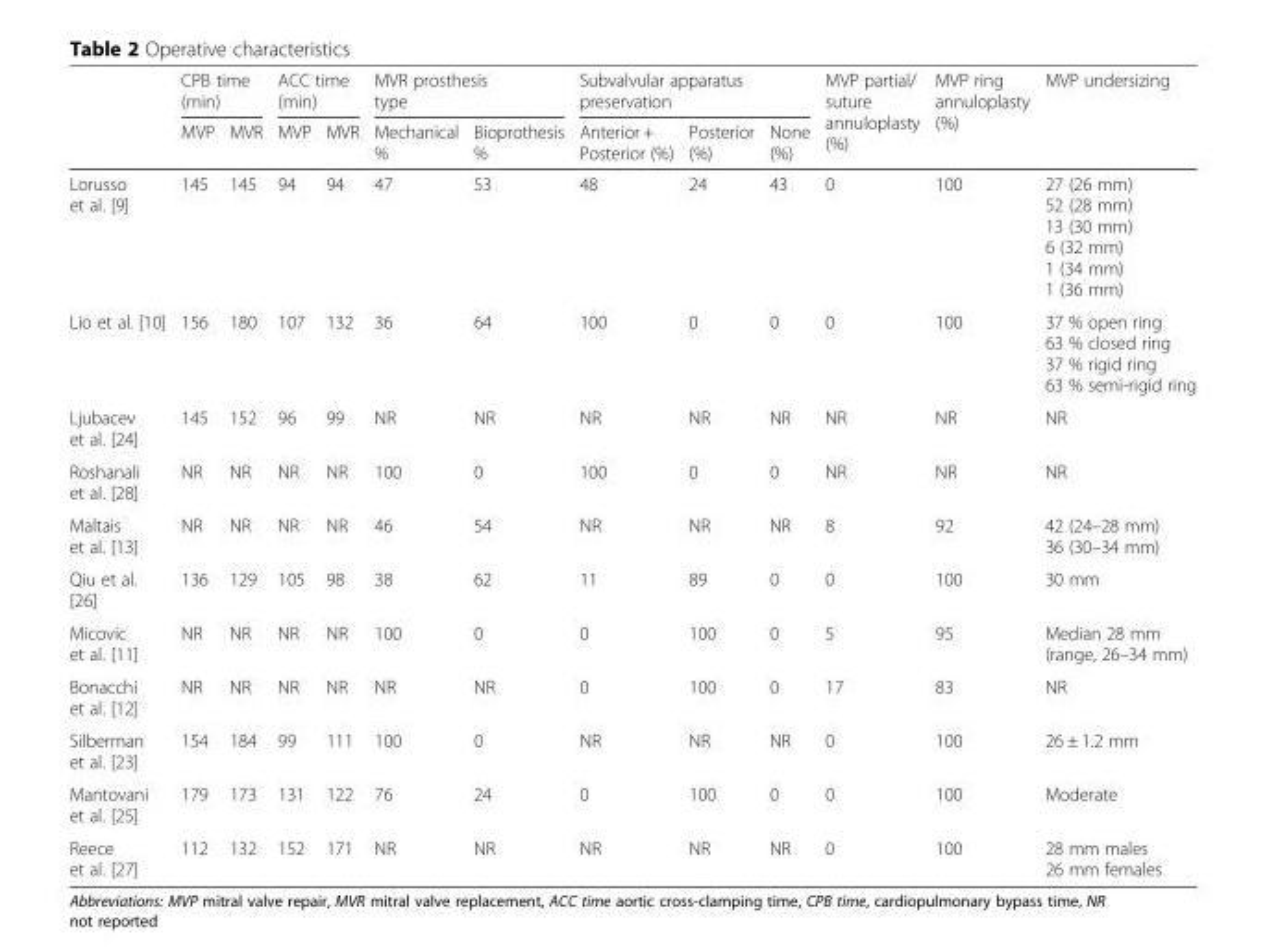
<table><thead><tr><td rowspan="2"></td><td colspan="2">CPB time (min)</td><td colspan="2">ACC time (min)</td><td colspan="2">MVR prosthesis type</td><td colspan="3">Subvalvular apparatus preservation</td><td rowspan="2">MVP partial/ suture annuloplasty (%)</td><td rowspan="2">MVP ring annuloplasty (%)</td><td rowspan="2">MVP undersizing</td></tr><tr><td>MVP</td><td>MVR</td><td>MVP</td><td>MVR</td><td>Mechanical %</td><td>Bioprothesis %</td><td>Anterior + Posterior (%)</td><td>Posterior (%)</td><td>None (%)</td></tr></thead><tbody><tr><td>Lorusso et al. [9]</td><td>145</td><td>145</td><td>94</td><td>94</td><td>47</td><td>53</td><td>48</td><td>24</td><td>43</td><td>0</td><td>100</td><td>27 (26 mm) 52 (28 mm) 13 (30 mm) 6 (32 mm) 1 (34 mm) 1 (36 mm)</td></tr><tr><td>Lio et al. [10]</td><td>156</td><td>180</td><td>107</td><td>132</td><td>36</td><td>64</td><td>100</td><td>0</td><td>0</td><td>0</td><td>100</td><td>37 % open ring 63 % closed ring 37 % rigid ring 63 % semi-rigid ring</td></tr><tr><td>Ljubacev et al. [24]</td><td>145</td><td>152</td><td>96</td><td>99</td><td>NR</td><td>NR</td><td>NR</td><td>NR</td><td>NR</td><td>NR</td><td>NR</td><td>NR</td></tr><tr><td>Roshanali et al. [28]</td><td>NR</td><td>NR</td><td>NR</td><td>NR</td><td>100</td><td>0</td><td>100</td><td>0</td><td>0</td><td>NR</td><td>NR</td><td>NR</td></tr><tr><td>Maltais et al. [13]</td><td>NR</td><td>NR</td><td>NR</td><td>NR</td><td>46</td><td>54</td><td>NR</td><td>NR</td><td>NR</td><td>8</td><td>92</td><td>42 (24–28 mm) 36 (30–34 mm)</td></tr><tr><td>Qiu et al. [26]</td><td>136</td><td>129</td><td>105</td><td>98</td><td>38</td><td>62</td><td>11</td><td>89</td><td>0</td><td>0</td><td>100</td><td>30 mm</td></tr><tr><td>Micovic et al. [11]</td><td>NR</td><td>NR</td><td>NR</td><td>NR</td><td>100</td><td>0</td><td>0</td><td>100</td><td>0</td><td>5</td><td>95</td><td>Median 28 mm (range, 26–34 mm)</td></tr><tr><td>Bonacchi et al. [12]</td><td>NR</td><td>NR</td><td>NR</td><td>NR</td><td>NR</td><td>NR</td><td>0</td><td>100</td><td>0</td><td>17</td><td>83</td><td>NR</td></tr><tr><td>Silberman et al. [23]</td><td>154</td><td>184</td><td>99</td><td>111</td><td>100</td><td>0</td><td>NR</td><td>NR</td><td>NR</td><td>0</td><td>100</td><td>26 ± 1.2 mm</td></tr><tr><td>Mantovani et al. [25]</td><td>179</td><td>173</td><td>131</td><td>122</td><td>76</td><td>24</td><td>0</td><td>100</td><td>0</td><td>0</td><td>100</td><td>Moderate</td></tr><tr><td>Reece et al. [27]</td><td>112</td><td>132</td><td>152</td><td>171</td><td>NR</td><td>NR</td><td>NR</td><td>NR</td><td>NR</td><td>0</td><td>100</td><td>28 mm males 26 mm females</td></tr></tbody></table>